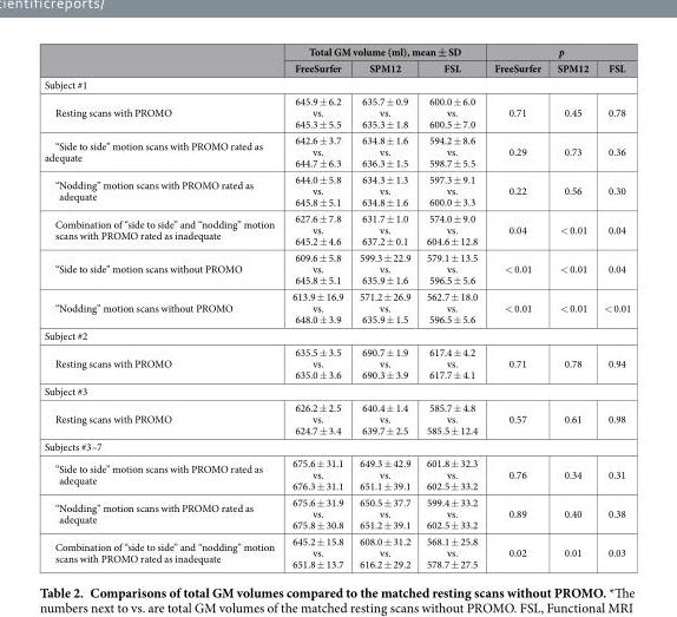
<table><thead><tr><td rowspan="2"></td><td colspan="3">Total GM volume (ml), mean ± SD</td><td colspan="3">p</td></tr><tr><td>FreeSurfer</td><td>SPM12</td><td>FSL</td><td>FreeSurfer</td><td>SPM12</td><td>FSL</td></tr></thead><tbody><tr><td colspan="7">Subject #1</td></tr><tr><td>Resting scans with PROMO</td><td>645.9 ± 6.2 vs. 645.3 ± 5.5</td><td>635.7 ± 0.9 vs. 635.3 ± 1.8</td><td>600.0 ± 6.0 vs. 600.5 ± 7.0</td><td>0.71</td><td>0.45</td><td>0.78</td></tr><tr><td>“Side to side” motion scans with PROMO rated as adequate</td><td>642.6 ± 3.7 vs. 644.7 ± 6.3</td><td>634.8 ± 1.6 vs. 636.3 ± 1.5</td><td>594.2 ± 8.6 vs. 598.7 ± 5.5</td><td>0.29</td><td>0.73</td><td>0.36</td></tr><tr><td>“ Nodding” motion scans with PROMO rated as adequate</td><td>644.0 ± 5.8 vs. 645.8 ± 5.1</td><td>634.3 ± 1.3 vs. 634.8 ± 1.6</td><td>597.3 ± 9.1 vs. 600.0 ± 3.3</td><td>0.22</td><td>0.56</td><td>0.30</td></tr><tr><td>Combination of “side to side” and “nodding” motion scans with PROMO rated as inadequate</td><td>627.6 ± 7.8 vs. 645.2 ± 4.6</td><td>631.7 ± 1.0 vs. 637.2 ± 0.1</td><td>574.0 ± 9.0 vs. 604.6 ± 12.8</td><td>0.04</td><td>&lt; 0.01</td><td>0.04</td></tr><tr><td>“Side to side” motion scans without PROMO</td><td>609.6 ± 5.8 vs. 645.8 ± 5.1</td><td>599.3 ± 22.9 vs. 635.9 ± 1.6</td><td>579.1 ± 13.5 vs. 596.5 ± 5.6</td><td>&lt; 0.01</td><td>&lt; 0.01</td><td>0.04</td></tr><tr><td>“Nodding” motion scans without PROMO</td><td>613.9 ± 16.9 vs. 648.0 ± 3.9</td><td>571.2 ± 26.9 vs. 635.9 ± 1.5</td><td>562.7 ± 18.0 vs. 596.5 ± 5.6</td><td>&lt; 0.01</td><td>&lt; 0.01</td><td>&lt; 0.01</td></tr><tr><td colspan="7">Subject #2</td></tr><tr><td>Resting scans with PROMO</td><td>635.5 ± 3.5 vs. 635.0 ± 3.6</td><td>690.7 ± 1.9 vs. 690.3 ± 3.9</td><td>617.4 ± 4.2 vs. 617.7 ± 4.1</td><td>0.71</td><td>0.78</td><td>0.94</td></tr><tr><td colspan="7">Subject #3</td></tr><tr><td>Resting scans with PROMO</td><td>626.2 ± 2.5 vs. 624.7 ± 3.4</td><td>640.4 ± 1.4 vs. 639.7 ± 2.5</td><td>585.7 ± 4.8 vs. 585.5 ± 12.4</td><td>0.57</td><td>0.61</td><td>0.98</td></tr><tr><td colspan="7">Subjects #3–7</td></tr><tr><td>“ Side to side” motion scans with PROMO rated as adequate</td><td>675.6 ± 31.1 vs. 676.3 ± 31.1</td><td>649.3 ± 42.9 vs. 651.1 ± 39.1</td><td>601.8 ± 32.3 vs. 602.5 ± 33.2</td><td>0.76</td><td>0.34</td><td>0.31</td></tr><tr><td>“ Nodding” motion scans with PROMO rated as adequate</td><td>675.6 ± 31.9 vs. 675.8 ± 30.8</td><td>650.5 ± 37.7 vs. 651.2 ± 39.1</td><td>599.4 ± 33.2 vs. 602.5 ± 33.2</td><td>0.89</td><td>0.40</td><td>0.38</td></tr><tr><td>Combination of “side to side” and “nodding” motion scans with PROMO rated as inadequate</td><td>645.2 ± 15.8 vs. 651.8 ± 13.7</td><td>608.0 ± 31.2 vs. 616.2 ± 29.2</td><td>568.1 ± 25.8 vs. 578.7 ± 27.5</td><td>0.02</td><td>0.01</td><td>0.03</td></tr></tbody></table>